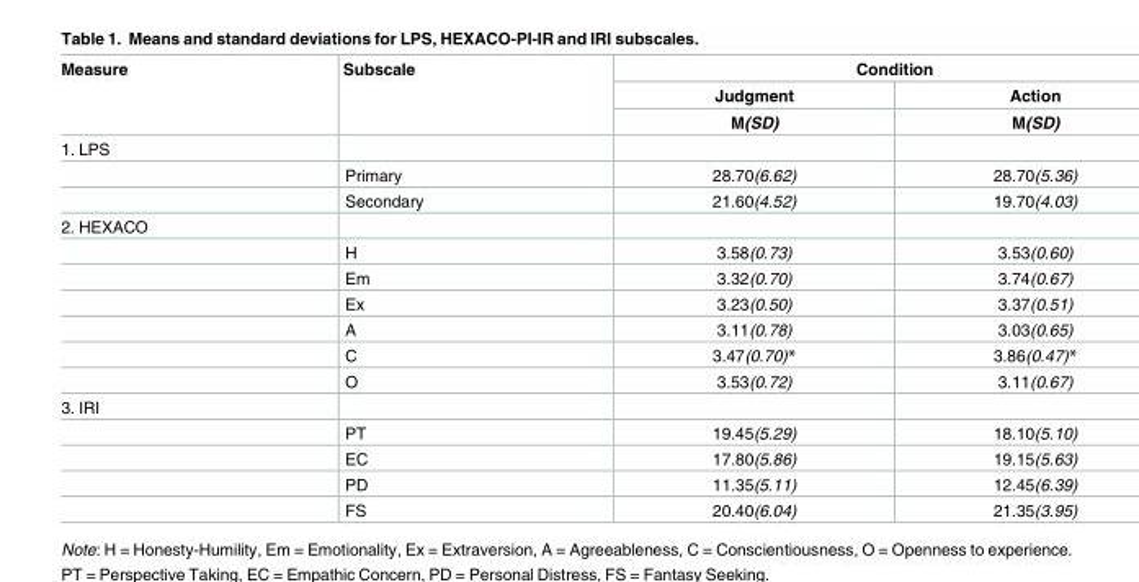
<table><thead><tr><td rowspan="3">Measure</td><td rowspan="3">Subscale</td><td colspan="2">Condition</td></tr><tr><td rowspan="2">Judgment M(SD)</td><td rowspan="2">Action M(SD)</td></tr><tr></tr></thead><tbody><tr><td colspan="4">1. LPS</td></tr><tr><td></td><td>Primary</td><td>28.70(6.62)</td><td>28.70(5.36)</td></tr><tr><td></td><td>Secondary</td><td>21.60(4.52)</td><td>19.70(4.03)</td></tr><tr><td colspan="4">2. HEXACO</td></tr><tr><td></td><td>H</td><td>3.58(0.73)</td><td>3.53(0.60)</td></tr><tr><td></td><td>Em</td><td>3.32(0.70)</td><td>3.74(0.67)</td></tr><tr><td></td><td>Ex</td><td>3.23(0.50)</td><td>3.37(0.51)</td></tr><tr><td></td><td>A</td><td>3.11(0.78)</td><td>3.03(0.65)</td></tr><tr><td></td><td>C</td><td>3.47(0.70)*</td><td>3.86(0.47)*</td></tr><tr><td></td><td>O</td><td>3.53(0.72)</td><td>3.11(0.67)</td></tr><tr><td colspan="4">3. IRI</td></tr><tr><td></td><td>PT</td><td>19.45(5.29)</td><td>18.10(5.10)</td></tr><tr><td></td><td>EC</td><td>17.80(5.86)</td><td>19.15(5.63)</td></tr><tr><td></td><td>PD</td><td>11.35(5.11)</td><td>12.45(6.39)</td></tr><tr><td></td><td>FS</td><td>20.40(6.04)</td><td>21.35(3.95)</td></tr></tbody></table>